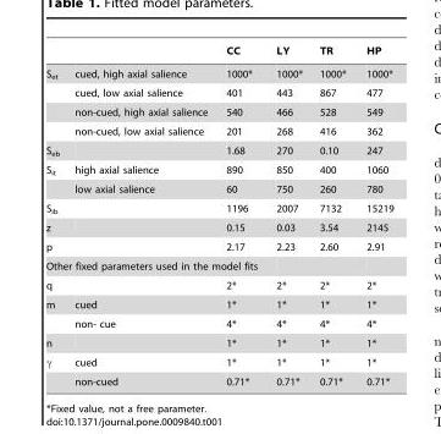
<table><thead><tr><td></td><td></td><td>CC</td><td>LY</td><td>TR</td><td>HP</td></tr></thead><tbody><tr><td rowspan="4">S<sub>et</sub></td><td>cued, high axial salience</td><td>1000*</td><td>1000*</td><td>1000*</td><td>1000*</td></tr><tr><td>cued, low axial salience</td><td>401</td><td>443</td><td>867</td><td>477</td></tr><tr><td>non-cued, high axial salience</td><td>540</td><td>466</td><td>528</td><td>549</td></tr><tr><td>non-cued, low axial salience</td><td>201</td><td>268</td><td>416</td><td>362</td></tr><tr><td>S<sub>eb</sub></td><td></td><td>1.68</td><td>270</td><td>0.10</td><td>247</td></tr><tr><td rowspan="2">S<sub>it</sub></td><td>high axial salience</td><td>890</td><td>850</td><td>400</td><td>1060</td></tr><tr><td>low axial salience</td><td>60</td><td>750</td><td>260</td><td>780</td></tr><tr><td>S<sub>ib</sub></td><td></td><td>1196</td><td>2007</td><td>7132</td><td>15219</td></tr><tr><td>z</td><td></td><td>0.15</td><td>0.03</td><td>3.54</td><td>2145</td></tr><tr><td>p</td><td></td><td>2.17</td><td>2.23</td><td>2.60</td><td>2.91</td></tr><tr><td colspan="6">Other fixed parameters used in the model fits</td></tr><tr><td>q</td><td></td><td>2*</td><td>2*</td><td>2*</td><td>2*</td></tr><tr><td rowspan="2">m</td><td>cued</td><td>1*</td><td>1*</td><td>1*</td><td>1*</td></tr><tr><td>non- cue</td><td>4*</td><td>4*</td><td>4*</td><td>4*</td></tr><tr><td>n</td><td></td><td>1*</td><td>1*</td><td>1*</td><td>1*</td></tr><tr><td rowspan="2">γ</td><td>cued</td><td>1*</td><td>1*</td><td>1*</td><td>1*</td></tr><tr><td>non-cued</td><td>0.71*</td><td>0.71*</td><td>0.71*</td><td>0.71*</td></tr></tbody></table>